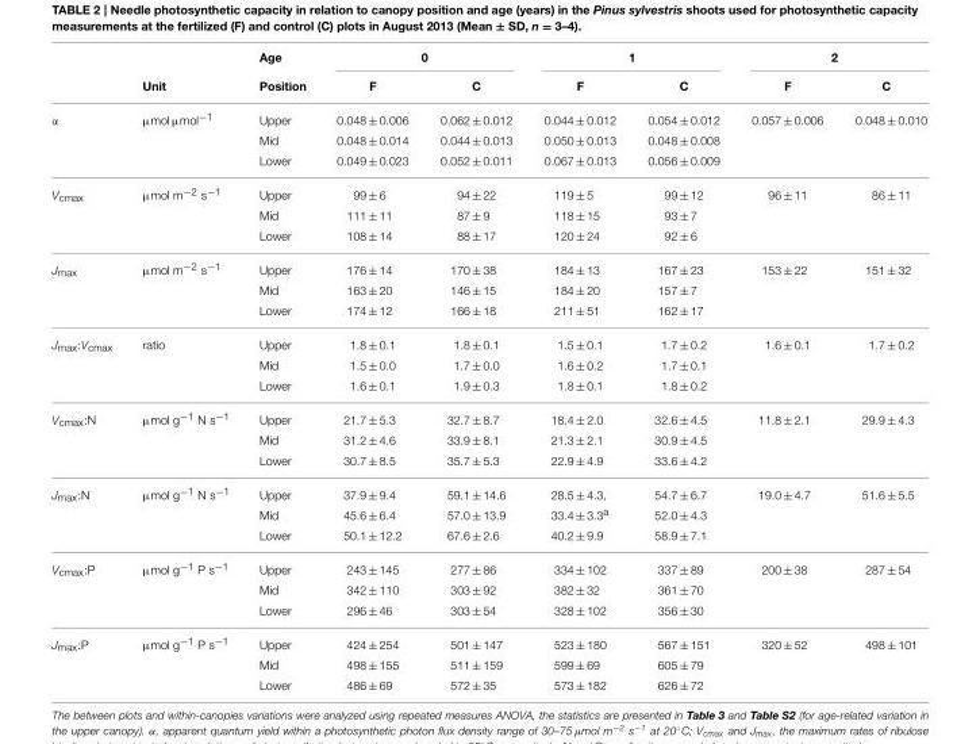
<table><thead><tr><td rowspan="2"></td><td rowspan="2">Unit</td><td rowspan="2">Age Position</td><td colspan="2">0</td><td colspan="2">1</td><td colspan="2">2</td></tr><tr><td>F</td><td>C</td><td>F</td><td>C</td><td>F</td><td>C</td></tr></thead><tbody><tr><td rowspan="3">α</td><td>µmol µmol<sup>−1</sup></td><td>Upper</td><td>0.048 ± 0.006</td><td>0.062 ± 0.012</td><td>0.044 ± 0.012</td><td>0.054 ± 0.012</td><td>0.057 ± 0.006</td><td>0.048 ± 0.010</td></tr><tr><td></td><td>Mid</td><td>0.048 ± 0.014</td><td>0.044 ± 0.013</td><td>0.050 ± 0.013</td><td>0.048 ± 0.008</td><td></td><td></td></tr><tr><td></td><td>Lower</td><td>0.049 ± 0.023</td><td>0.052 ± 0.011</td><td>0.067 ± 0.013</td><td>0.056 ± 0.009</td><td></td><td></td></tr><tr><td rowspan="3">V<sub>cmax</sub></td><td>µmol m<sup>−2</sup> s<sup>−1</sup></td><td>Upper</td><td>99 ± 6</td><td>94 ± 22</td><td>119 ± 5</td><td>99 ± 12</td><td>96 ± 11</td><td>86 ± 11</td></tr><tr><td></td><td>Mid</td><td>111 ± 11</td><td>87 ± 9</td><td>118 ± 15</td><td>93 ± 7</td><td></td><td></td></tr><tr><td></td><td>Lower</td><td>108 ± 14</td><td>88 ± 17</td><td>120 ± 24</td><td>92 ± 6</td><td></td><td></td></tr><tr><td rowspan="3">J<sub>max</sub></td><td>µmol m<sup>−2</sup> s<sup>−1</sup></td><td>Upper</td><td>176 ± 14</td><td>170 ± 38</td><td>184 ± 13</td><td>167 ± 23</td><td>153 ± 22</td><td>151 ± 32</td></tr><tr><td></td><td>Mid</td><td>163 ± 20</td><td>146 ± 15</td><td>184 ± 20</td><td>157 ± 7</td><td></td><td></td></tr><tr><td></td><td>Lower</td><td>174 ± 12</td><td>166 ± 18</td><td>211 ± 51</td><td>162 ± 17</td><td></td><td></td></tr><tr><td rowspan="3">J<sub>max</sub>:V<sub>cmax</sub></td><td>ratio</td><td>Upper</td><td>1.8 ± 0.1</td><td>1.8 ± 0.1</td><td>1.5 ± 0.1</td><td>1.7 ± 0.2</td><td>1.6 ± 0.1</td><td>1.7 ± 0.2</td></tr><tr><td></td><td>Mid</td><td>1.5 ± 0.0</td><td>1.7 ± 0.0</td><td>1.6 ± 0.2</td><td>1.7 ± 0.1</td><td></td><td></td></tr><tr><td></td><td>Lower</td><td>1.6 ± 0.1</td><td>1.9 ± 0.3</td><td>1.8 ± 0.1</td><td>1.8 ± 0.2</td><td></td><td></td></tr><tr><td rowspan="3">V<sub>cmax</sub>:N</td><td>µmol g<sup>−1</sup> N s<sup>−1</sup></td><td>Upper</td><td>21.7 ± 5.3</td><td>32.7 ± 8.7</td><td>18.4 ± 2.0</td><td>32.6 ± 4.5</td><td>11.8 ± 2.1</td><td>29.9 ± 4.3</td></tr><tr><td></td><td>Mid</td><td>31.2 ± 4.6</td><td>33.9 ± 8.1</td><td>21.3 ± 2.1</td><td>30.9 ± 4.5</td><td></td><td></td></tr><tr><td></td><td>Lower</td><td>30.7 ± 8.5</td><td>35.7 ± 5.3</td><td>22.9 ± 4.9</td><td>33.6 ± 4.2</td><td></td><td></td></tr><tr><td rowspan="3">J<sub>max</sub>:N</td><td>µmol g<sup>−1</sup> N s<sup>−1</sup></td><td>Upper</td><td>37.9 ± 9.4</td><td>59.1 ± 14.6</td><td>28.5 ± 4.3,</td><td>54.7 ± 6.7</td><td>19.0 ± 4.7</td><td>51.6 ± 5.5</td></tr><tr><td></td><td>Mid</td><td>45.6 ± 6.4</td><td>57.0 ± 13.9</td><td>33.4 ± 3.3a</td><td>52.0 ± 4.3</td><td></td><td></td></tr><tr><td></td><td>Lower</td><td>50.1 ± 12.2</td><td>67.6 ± 2.6</td><td>40.2 ± 9.9</td><td>58.9 ± 7.1</td><td></td><td></td></tr><tr><td rowspan="3">V<sub>cmax</sub>:P</td><td>µmol g<sup>−1</sup> P s<sup>−1</sup></td><td>Upper</td><td>243 ± 145</td><td>277 ± 86</td><td>334 ± 102</td><td>337 ± 89</td><td>200 ± 38</td><td>287 ± 54</td></tr><tr><td></td><td>Mid</td><td>342 ± 110</td><td>303 ± 92</td><td>382 ± 32</td><td>361 ± 70</td><td></td><td></td></tr><tr><td></td><td>Lower</td><td>296 ± 46</td><td>303 ± 54</td><td>328 ± 102</td><td>356 ± 30</td><td></td><td></td></tr><tr><td rowspan="3">J<sub>max</sub>:P</td><td>µmol g<sup>−1</sup> P s<sup>−1</sup></td><td>Upper</td><td>424 ± 254</td><td>501 ± 147</td><td>523 ± 180</td><td>567 ± 151</td><td>320 ± 52</td><td>498 ± 101</td></tr><tr><td></td><td>Mid</td><td>498 ± 155</td><td>511 ± 159</td><td>599 ± 69</td><td>605 ± 79</td><td></td><td></td></tr><tr><td></td><td>Lower</td><td>486 ± 69</td><td>572 ± 35</td><td>573 ± 182</td><td>626 ± 72</td><td></td><td></td></tr></tbody></table>